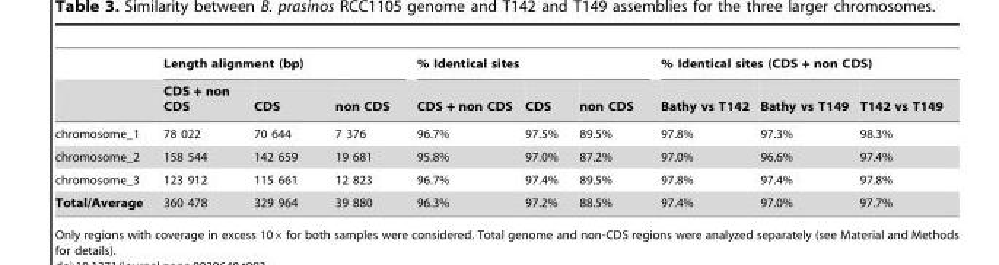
<table><thead><tr><td rowspan="2"></td><td colspan="3">Length alignment (bp)</td><td colspan="3">% Identical sites</td><td colspan="3">% Identical sites (CDS + non CDS)</td></tr><tr><td>CDS + non CDS</td><td>CDS</td><td>non CDS</td><td>CDS + non CDS</td><td>CDS</td><td>non CDS</td><td>Bathy vs T142</td><td>Bathy vs T149</td><td>T142 vs T149</td></tr></thead><tbody><tr><td>chromosome_1</td><td>78 022</td><td>70 644</td><td>7 376</td><td>96.7%</td><td>97.5%</td><td>89.5%</td><td>97.8%</td><td>97.3%</td><td>98.3%</td></tr><tr><td>chromosome_2</td><td>158 544</td><td>142 659</td><td>19 681</td><td>95.8%</td><td>97.0%</td><td>87.2%</td><td>97.0%</td><td>96.6%</td><td>97.4%</td></tr><tr><td>chromosome_3</td><td>123 912</td><td>115 661</td><td>12 823</td><td>96.7%</td><td>97.4%</td><td>89.5%</td><td>97.8%</td><td>97.4%</td><td>97.8%</td></tr><tr><td>Total/Average</td><td>360 478</td><td>329 964</td><td>39 880</td><td>96.3%</td><td>97.2%</td><td>88.5%</td><td>97.4%</td><td>97.0%</td><td>97.7%</td></tr></tbody></table>